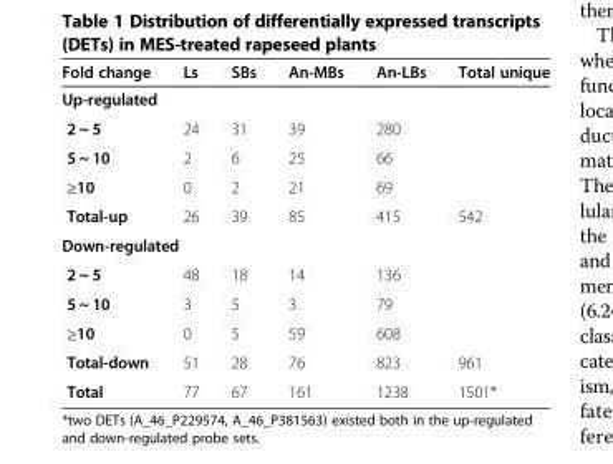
<table><thead><tr><td>Fold change</td><td>Ls</td><td>SBs</td><td>An-MBs</td><td>An-LBs</td><td>Total unique</td></tr></thead><tbody><tr><td colspan="6">Up-regulated</td></tr><tr><td>2 ~ 5</td><td>24</td><td>31</td><td>39</td><td>280</td><td></td></tr><tr><td>5 ~ 10</td><td>2</td><td>6</td><td>25</td><td>66</td><td></td></tr><tr><td>≥10</td><td>0</td><td>2</td><td>21</td><td>69</td><td></td></tr><tr><td>Total-up</td><td>26</td><td>39</td><td>85</td><td>415</td><td>542</td></tr><tr><td colspan="6">Down-regulated</td></tr><tr><td>2 ~ 5</td><td>48</td><td>18</td><td>14</td><td>136</td><td></td></tr><tr><td>5 ~ 10</td><td>3</td><td>5</td><td>3</td><td>79</td><td></td></tr><tr><td>≥10</td><td>0</td><td>5</td><td>59</td><td>608</td><td></td></tr><tr><td>Total-down</td><td>51</td><td>28</td><td>76</td><td>823</td><td>961</td></tr><tr><td>Total</td><td>77</td><td>67</td><td>161</td><td>1238</td><td>1501*</td></tr></tbody></table>